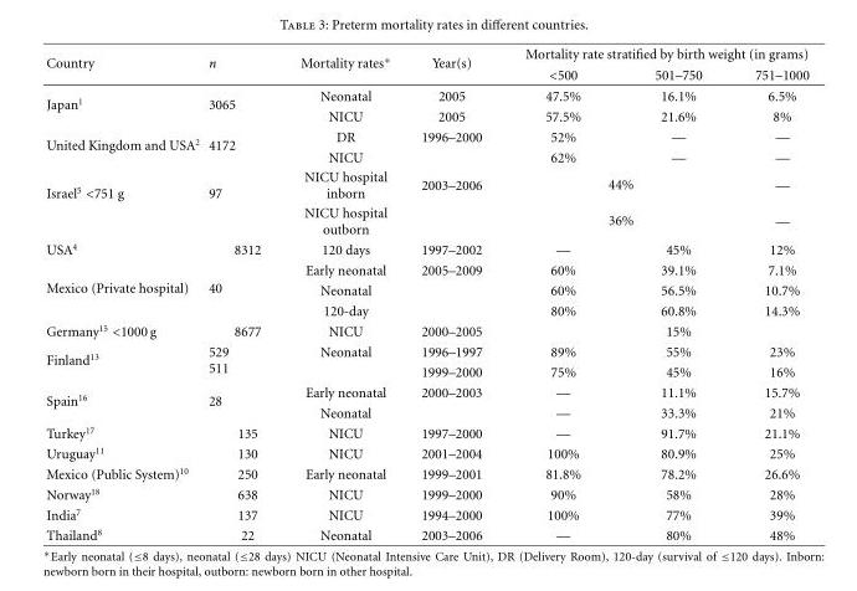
<table><thead><tr><td rowspan="2">Country</td><td rowspan="2">n</td><td rowspan="2">Mortality rates∗</td><td rowspan="2">Year(s)</td><td colspan="3">Mortality rate stratified by birth weight (in grams)</td></tr><tr><td>&lt;500</td><td>501–750</td><td>751–1000</td></tr></thead><tbody><tr><td rowspan="2">Japan<sup>1</sup></td><td rowspan="2">3065</td><td>Neonatal</td><td>2005</td><td>47.5%</td><td>16.1%</td><td>6.5%</td></tr><tr><td>NICU</td><td>2005</td><td>57.5%</td><td>21.6%</td><td>8%</td></tr><tr><td rowspan="2">United Kingdom and USA<sup>2</sup></td><td rowspan="2">4172</td><td>DR</td><td>1996–2000</td><td>52%</td><td>—</td><td>—</td></tr><tr><td>NICU</td><td></td><td>62%</td><td>—</td><td>—</td></tr><tr><td rowspan="2">Israel<sup>5</sup> &lt;751 g</td><td rowspan="2">97</td><td>NICU hospital inborn</td><td>2003–2006</td><td colspan="2">44%</td><td>—</td></tr><tr><td>NICU hospital outborn</td><td></td><td colspan="2">36%</td><td>—</td></tr><tr><td>USA<sup>4</sup></td><td>8312</td><td>120 days</td><td>1997–2002</td><td>—</td><td>45%</td><td>12%</td></tr><tr><td rowspan="3">Mexico (Private hospital)</td><td rowspan="3">40</td><td>Early neonatal</td><td>2005–2009</td><td>60%</td><td>39.1%</td><td>7.1%</td></tr><tr><td>Neonatal</td><td></td><td>60%</td><td>56.5%</td><td>10.7%</td></tr><tr><td>120-day</td><td></td><td>80%</td><td>60.8%</td><td>14.3%</td></tr><tr><td>Germany<sup>15</sup> &lt;1000 g</td><td>8677</td><td>NICU</td><td>2000–2005</td><td></td><td>15%</td><td></td></tr><tr><td rowspan="2">Finland<sup>13</sup></td><td rowspan="2">529 511</td><td>Neonatal</td><td>1996–1997</td><td>89%</td><td>55%</td><td>23%</td></tr><tr><td></td><td>1999–2000</td><td>75%</td><td>45%</td><td>16%</td></tr><tr><td rowspan="2">Spain<sup>16</sup></td><td rowspan="2">28</td><td>Early neonatal</td><td>2000–2003</td><td>—</td><td>11.1%</td><td>15.7%</td></tr><tr><td>Neonatal</td><td></td><td>—</td><td>33.3%</td><td>21%</td></tr><tr><td>Turkey<sup>17</sup></td><td>135</td><td>NICU</td><td>1997–2000</td><td>—</td><td>91.7%</td><td>21.1%</td></tr><tr><td>Uruguay<sup>11</sup></td><td>130</td><td>NICU</td><td>2001–2004</td><td>100%</td><td>80.9%</td><td>25%</td></tr><tr><td>Mexico (Public System)<sup>10</sup></td><td>250</td><td>Early neonatal</td><td>1999–2001</td><td>81.8%</td><td>78.2%</td><td>26.6%</td></tr><tr><td>Norway<sup>18</sup></td><td>638</td><td>NICU</td><td>1999–2000</td><td>90%</td><td>58%</td><td>28%</td></tr><tr><td>India<sup>7</sup></td><td>137</td><td>NICU</td><td>1994–2000</td><td>100%</td><td>77%</td><td>39%</td></tr><tr><td>Thailand<sup>8</sup></td><td>22</td><td>Neonatal</td><td>2003–2006</td><td>—</td><td>80%</td><td>48%</td></tr></tbody></table>